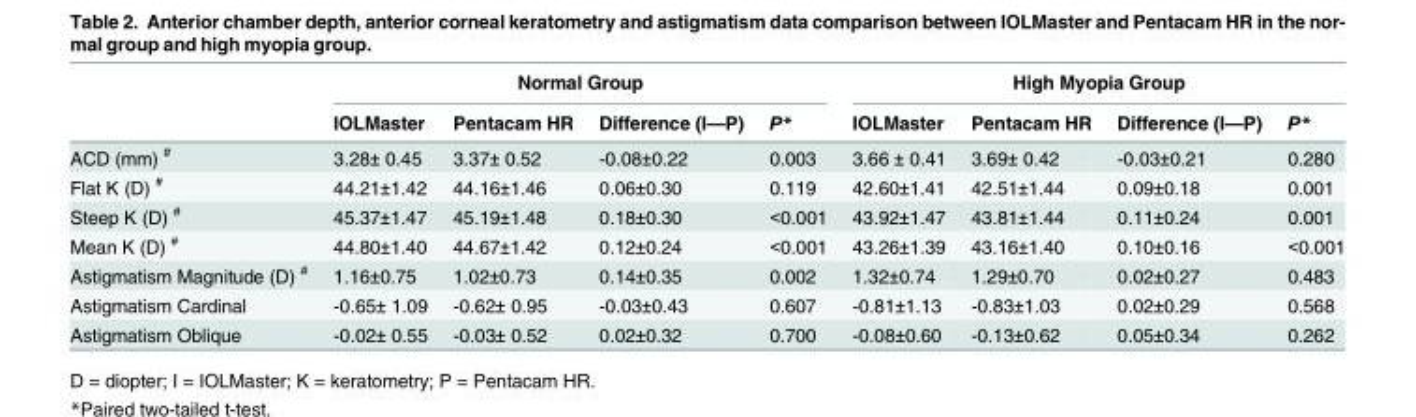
<table><thead><tr><td rowspan="2"></td><td colspan="4">Normal Group</td><td colspan="4">High Myopia Group</td></tr><tr><td>IOLMaster</td><td>Pentacam HR</td><td>Difference (I—P)</td><td>P*</td><td>IOLMaster</td><td>Pentacam HR</td><td>Difference (I—P)</td><td>P*</td></tr></thead><tbody><tr><td>ACD (mm) <sup>#</sup></td><td>3.28± 0.45</td><td>3.37± 0.52</td><td>-0.08±0.22</td><td>0.003</td><td>3.66 ± 0.41</td><td>3.69± 0.42</td><td>-0.03±0.21</td><td>0.280</td></tr><tr><td>Flat K (D) <sup>#</sup></td><td>44.21±1.42</td><td>44.16±1.46</td><td>0.06±0.30</td><td>0.119</td><td>42.60±1.41</td><td>42.51±1.44</td><td>0.09±0.18</td><td>0.001</td></tr><tr><td>Steep K (D) <sup>#</sup></td><td>45.37±1.47</td><td>45.19±1.48</td><td>0.18±0.30</td><td>&lt;0.001</td><td>43.92±1.47</td><td>43.81±1.44</td><td>0.11±0.24</td><td>0.001</td></tr><tr><td>Mean K (D) <sup>#</sup></td><td>44.80±1.40</td><td>44.67±1.42</td><td>0.12±0.24</td><td>&lt;0.001</td><td>43.26±1.39</td><td>43.16±1.40</td><td>0.10±0.16</td><td>&lt;0.001</td></tr><tr><td>Astigmatism Magnitude (D) <sup>#</sup></td><td>1.16±0.75</td><td>1.02±0.73</td><td>0.14±0.35</td><td>0.002</td><td>1.32±0.74</td><td>1.29±0.70</td><td>0.02±0.27</td><td>0.483</td></tr><tr><td>Astigmatism Cardinal</td><td>-0.65± 1.09</td><td>-0.62± 0.95</td><td>-0.03±0.43</td><td>0.607</td><td>-0.81±1.13</td><td>-0.83±1.03</td><td>0.02±0.29</td><td>0.568</td></tr><tr><td>Astigmatism Oblique</td><td>-0.02± 0.55</td><td>-0.03± 0.52</td><td>0.02±0.32</td><td>0.700</td><td>-0.08±0.60</td><td>-0.13±0.62</td><td>0.05±0.34</td><td>0.262</td></tr></tbody></table>